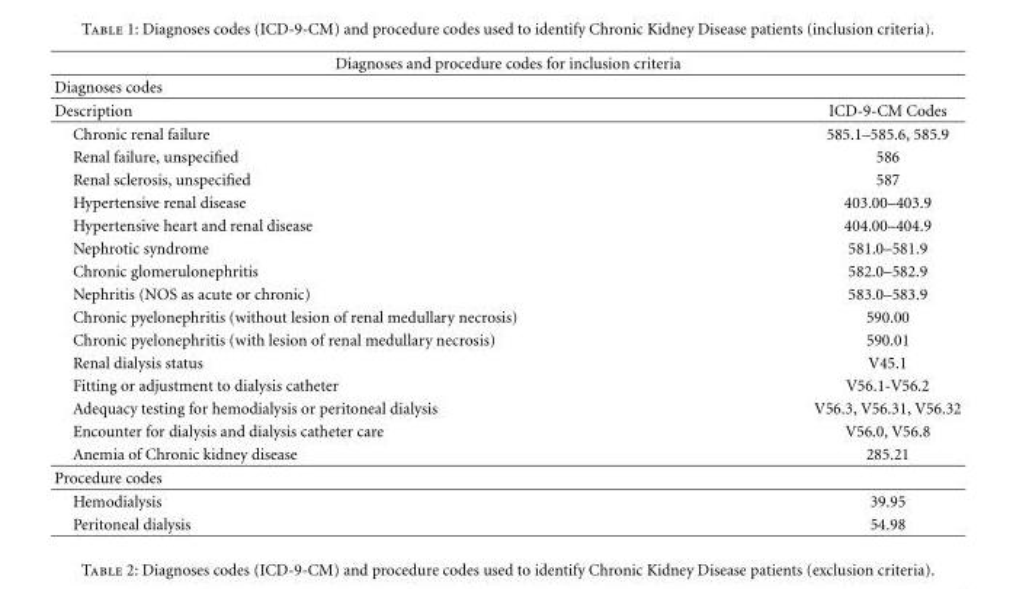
<table><thead><tr><td colspan="2">Diagnoses and procedure codes for inclusion criteria</td></tr><tr><td>Diagnoses codes</td><td></td></tr></thead><tbody><tr><td>Description</td><td>ICD-9-CM Codes</td></tr><tr><td>Chronic renal failure</td><td>585.1–585.6, 585.9</td></tr><tr><td>Renal failure, unspecified</td><td>586</td></tr><tr><td>Renal sclerosis, unspecified</td><td>587</td></tr><tr><td>Hypertensive renal disease</td><td>403.00–403.9</td></tr><tr><td>Hypertensive heart and renal disease</td><td>404.00–404.9</td></tr><tr><td>Nephrotic syndrome</td><td>581.0–581.9</td></tr><tr><td>Chronic glomerulonephritis</td><td>582.0–582.9</td></tr><tr><td>Nephritis (NOS as acute or chronic)</td><td>583.0–583.9</td></tr><tr><td>Chronic pyelonephritis (without lesion of renal medullary necrosis)</td><td>590.00</td></tr><tr><td>Chronic pyelonephritis (with lesion of renal medullary necrosis)</td><td>590.01</td></tr><tr><td>Renal dialysis status</td><td>V45.1</td></tr><tr><td>Fitting or adjustment to dialysis catheter</td><td>V56.1-V56.2</td></tr><tr><td>Adequacy testing for hemodialysis or peritoneal dialysis</td><td>V56.3, V56.31, V56.32</td></tr><tr><td>Encounter for dialysis and dialysis catheter care</td><td>V56.0, V56.8</td></tr><tr><td>Anemia of Chronic kidney disease</td><td>285.21</td></tr><tr><td colspan="2">Procedure codes</td></tr><tr><td>Hemodialysis</td><td>39.95</td></tr><tr><td>Peritoneal dialysis</td><td>54.98</td></tr></tbody></table>